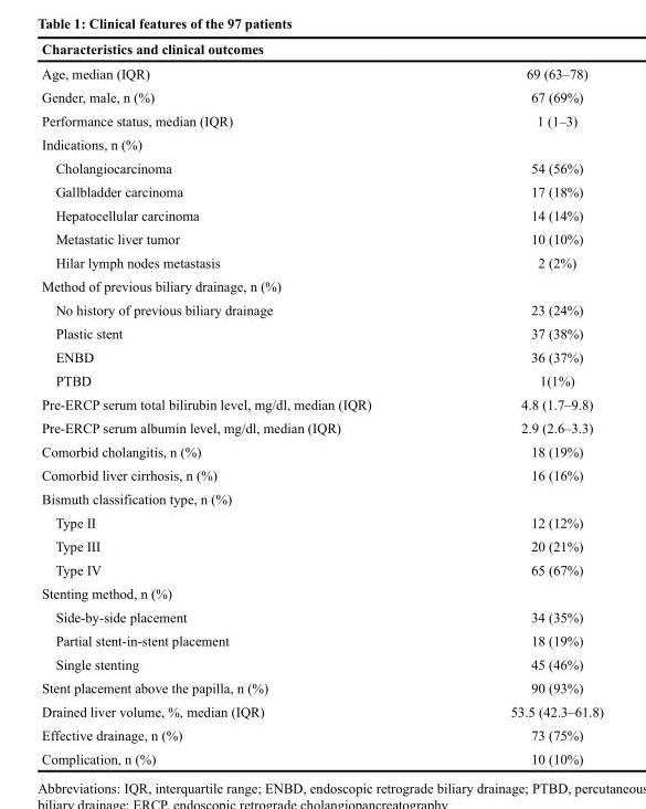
<table><thead><tr><td colspan="2">Characteristics and clinical outcomes</td></tr><tr><td>Age, median (IQR)</td><td>69 (63–78)</td></tr></thead><tbody><tr><td>Gender, male, n (%)</td><td>67 (69%)</td></tr><tr><td>Performance status, median (IQR)</td><td>1 (1–3)</td></tr><tr><td colspan="2">Indications, n (%)</td></tr><tr><td>Cholangiocarcinoma</td><td>54 (56%)</td></tr><tr><td>Gallbladder carcinoma</td><td>17 (18%)</td></tr><tr><td>Hepatocellular carcinoma</td><td>14 (14%)</td></tr><tr><td>Metastatic liver tumor</td><td>10 (10%)</td></tr><tr><td>Hilar lymph nodes metastasis</td><td>2 (2%)</td></tr><tr><td colspan="2">Method of previous biliary drainage, n (%)</td></tr><tr><td>No history of previous biliary drainage</td><td>23 (24%)</td></tr><tr><td>Plastic stent</td><td>37 (38%)</td></tr><tr><td>ENBD</td><td>36 (37%)</td></tr><tr><td>PTBD</td><td>1(1%)</td></tr><tr><td>Pre-ERCP serum total bilirubin level, mg/dl, median (IQR)</td><td>4.8 (1.7–9.8)</td></tr><tr><td>Pre-ERCP serum albumin level, mg/dl, median (IQR)</td><td>2.9 (2.6–3.3)</td></tr><tr><td>Comorbid cholangitis, n (%)</td><td>18 (19%)</td></tr><tr><td>Comorbid liver cirrhosis, n (%)</td><td>16 (16%)</td></tr><tr><td colspan="2">Bismuth classification type, n (%)</td></tr><tr><td>Type II</td><td>12 (12%)</td></tr><tr><td>Type III</td><td>20 (21%)</td></tr><tr><td>Type IV</td><td>65 (67%)</td></tr><tr><td colspan="2">Stenting method, n (%)</td></tr><tr><td>Side-by-side placement</td><td>34 (35%)</td></tr><tr><td>Partial stent-in-stent placement</td><td>18 (19%)</td></tr><tr><td>Single stenting</td><td>45 (46%)</td></tr><tr><td>Stent placement above the papilla, n (%)</td><td>90 (93%)</td></tr><tr><td>Drained liver volume, %, median (IQR)</td><td>53.5 (42.3–61.8)</td></tr><tr><td>Effective drainage, n (%)</td><td>73 (75%)</td></tr><tr><td>Complication, n (%)</td><td>10 (10%)</td></tr></tbody></table>